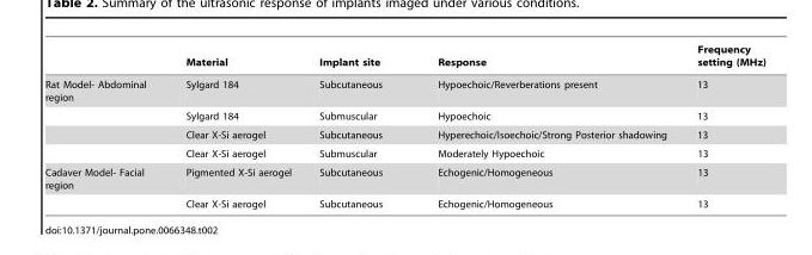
<table><thead><tr><td></td><td>Material</td><td>Implant site</td><td>Response</td><td>Frequency setting (MHz)</td></tr></thead><tbody><tr><td rowspan="4">Rat Model- Abdominal region</td><td>Sylgard 184</td><td>Subcutaneous</td><td>Hypoechoic/Reverberations present</td><td>13</td></tr><tr><td>Sylgard 184</td><td>Submuscular</td><td>Hypoechoic</td><td>13</td></tr><tr><td>Clear X-Si aerogel</td><td>Subcutaneous</td><td>Hyperechoic/Isoechoic/Strong Posterior shadowing</td><td>13</td></tr><tr><td>Clear X-Si aerogel</td><td>Submuscular</td><td>Moderately Hypoechoic</td><td>13</td></tr><tr><td rowspan="2">Cadaver Model- Facial region</td><td>Pigmented X-Si aerogel</td><td>Subcutaneous</td><td>Echogenic/Homogeneous</td><td>13</td></tr><tr><td>Clear X-Si aerogel</td><td>Subcutaneous</td><td>Echogenic/Homogeneous</td><td>13</td></tr></tbody></table>